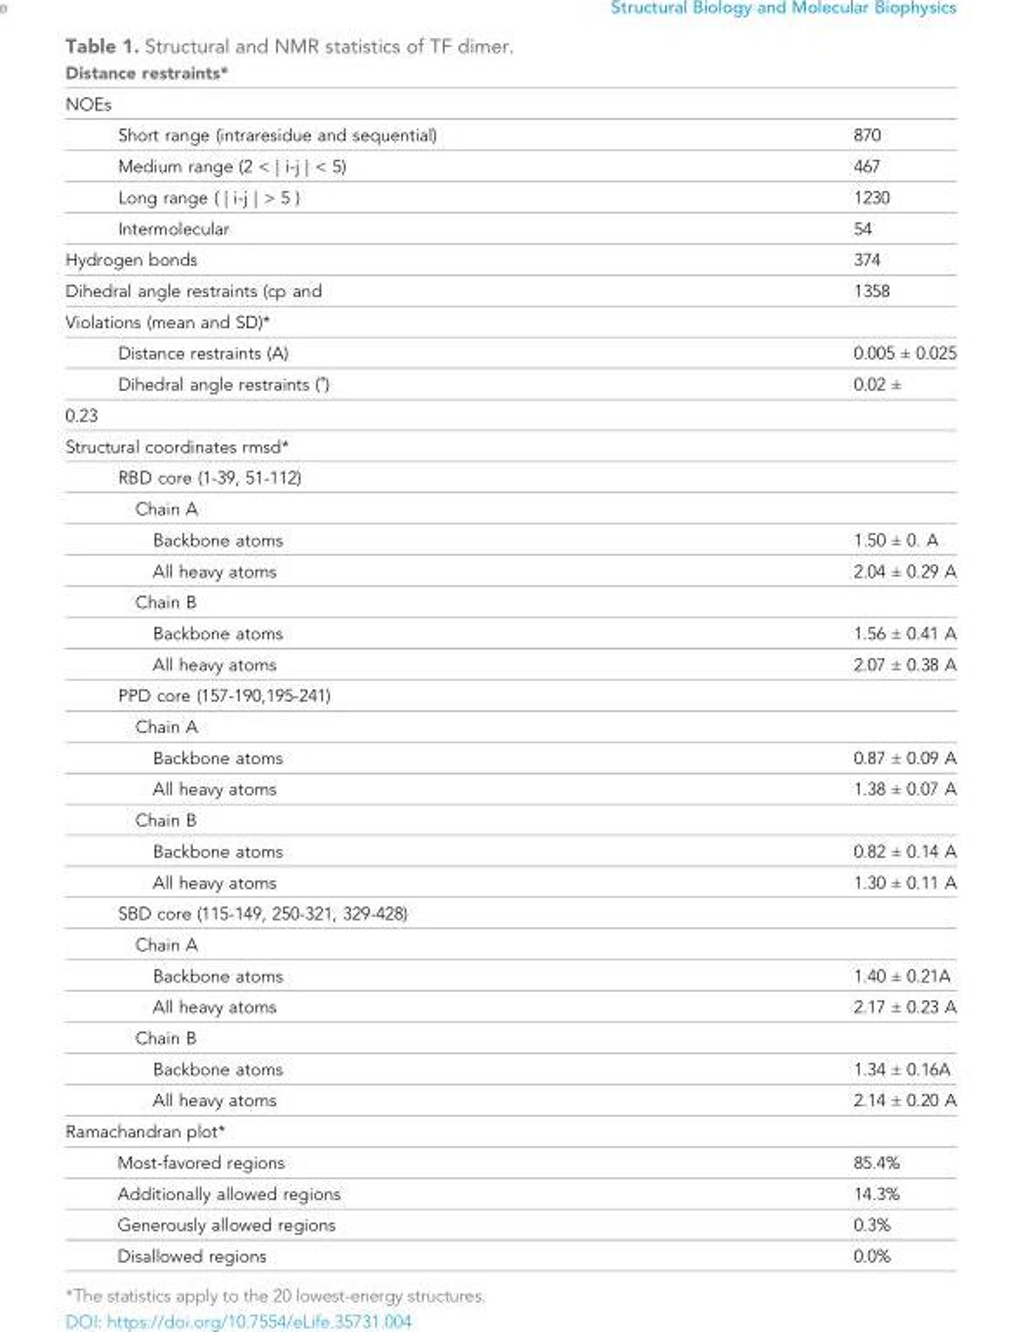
<table><thead><tr><td>Distance restraints*</td><td></td></tr></thead><tbody><tr><td colspan="2">NOEs</td></tr><tr><td>Short range (intraresidue and sequential)</td><td>870</td></tr><tr><td>Medium range (2 &lt; | i-j | &lt; 5)</td><td>467</td></tr><tr><td>Long range ( | i-j | &gt; 5 )</td><td>1230</td></tr><tr><td>Intermolecular</td><td>54</td></tr><tr><td>Hydrogen bonds</td><td>374</td></tr><tr><td>Dihedral angle restraints (cp and</td><td>1358</td></tr><tr><td colspan="2">Violations (mean and SD)*</td></tr><tr><td>Distance restraints (A)</td><td>0.005 ± 0.025</td></tr><tr><td>Dihedral angle restraints (˚)</td><td>0.02 ±</td></tr><tr><td colspan="2">0.23</td></tr><tr><td colspan="2">Structural coordinates rmsd*</td></tr><tr><td colspan="2">RBD core (1-39, 51-112)</td></tr><tr><td colspan="2">Chain A</td></tr><tr><td>Backbone atoms</td><td>1.50 ± 0. A</td></tr><tr><td>All heavy atoms</td><td>2.04 ± 0.29 A</td></tr><tr><td colspan="2">Chain B</td></tr><tr><td>Backbone atoms</td><td>1.56 ± 0.41 A</td></tr><tr><td>All heavy atoms</td><td>2.07 ± 0.38 A</td></tr><tr><td colspan="2">PPD core (157-190,195-241)</td></tr><tr><td colspan="2">Chain A</td></tr><tr><td>Backbone atoms</td><td>0.87 ± 0.09 A</td></tr><tr><td>All heavy atoms</td><td>1.38 ± 0.07 A</td></tr><tr><td colspan="2">Chain B</td></tr><tr><td>Backbone atoms</td><td>0.82 ± 0.14 A</td></tr><tr><td>All heavy atoms</td><td>1.30 ± 0.11 A</td></tr><tr><td colspan="2">SBD core (115-149, 250-321, 329-428)</td></tr><tr><td colspan="2">Chain A</td></tr><tr><td>Backbone atoms</td><td>1.40 ± 0.21A</td></tr><tr><td>All heavy atoms</td><td>2.17 ± 0.23 A</td></tr><tr><td colspan="2">Chain B</td></tr><tr><td>Backbone atoms</td><td>1.34 ± 0.16A</td></tr><tr><td>All heavy atoms</td><td>2.14 ± 0.20 A</td></tr><tr><td colspan="2">Ramachandran plot*</td></tr><tr><td>Most-favored regions</td><td>85.4%</td></tr><tr><td>Additionally allowed regions</td><td>14.3%</td></tr><tr><td>Generously allowed regions</td><td>0.3%</td></tr><tr><td>Disallowed regions</td><td>0.0%</td></tr></tbody></table>